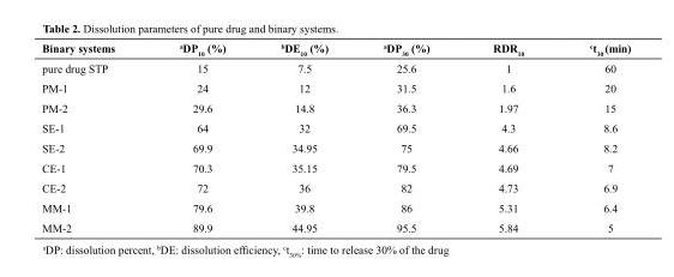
<table><thead><tr><td>Binary systems</td><td>aDP<sub>10</sub> (%)</td><td>bDE<sub>10</sub> (%)</td><td>aDP<sub>30</sub> (%)</td><td>RDR<sub>10</sub></td><td>ct<sub>30</sub> (min)</td></tr></thead><tbody><tr><td>pure drug STP</td><td>15</td><td>7.5</td><td>25.6</td><td>1</td><td>60</td></tr><tr><td>PM-1</td><td>24</td><td>12</td><td>31.5</td><td>1.6</td><td>20</td></tr><tr><td>PM-2</td><td>29.6</td><td>14.8</td><td>36.3</td><td>1.97</td><td>15</td></tr><tr><td>SE-1</td><td>64</td><td>32</td><td>69.5</td><td>4.3</td><td>8.6</td></tr><tr><td>SE-2</td><td>69.9</td><td>34.95</td><td>75</td><td>4.66</td><td>8.2</td></tr><tr><td>CE-1</td><td>70.3</td><td>35.15</td><td>79.5</td><td>4.69</td><td>7</td></tr><tr><td>CE-2</td><td>72</td><td>36</td><td>82</td><td>4.73</td><td>6.9</td></tr><tr><td>MM-1</td><td>79.6</td><td>39.8</td><td>86</td><td>5.31</td><td>6.4</td></tr><tr><td>MM-2</td><td>89.9</td><td>44.95</td><td>95.5</td><td>5.84</td><td>5</td></tr></tbody></table>